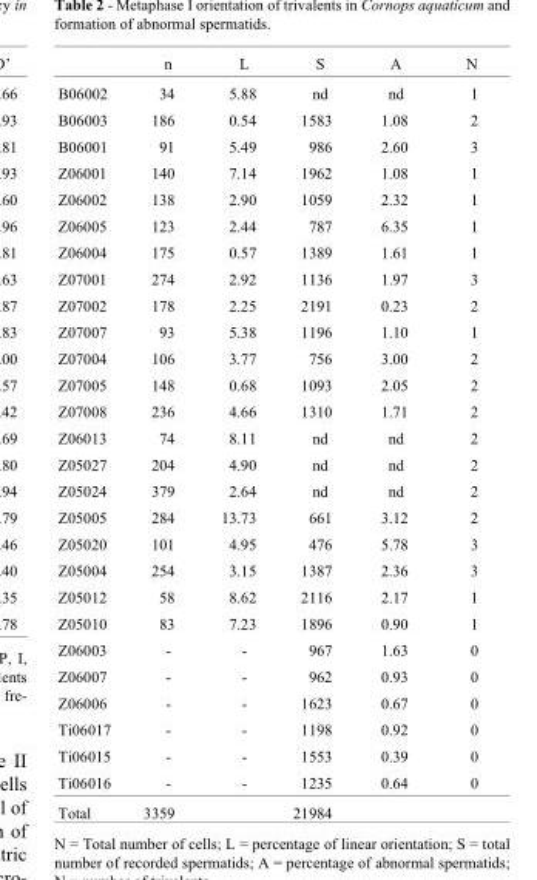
<table><thead><tr><td></td><td>n</td><td>L</td><td>S</td><td>A</td><td>N</td></tr></thead><tbody><tr><td>B06002</td><td>34</td><td>5.88</td><td>nd</td><td>nd</td><td>1</td></tr><tr><td>B06003</td><td>186</td><td>0.54</td><td>1583</td><td>1.08</td><td>2</td></tr><tr><td>B06001</td><td>91</td><td>5.49</td><td>986</td><td>2.60</td><td>3</td></tr><tr><td>Z06001</td><td>140</td><td>7.14</td><td>1962</td><td>1.08</td><td>1</td></tr><tr><td>Z06002</td><td>138</td><td>2.90</td><td>1059</td><td>2.32</td><td>1</td></tr><tr><td>Z06005</td><td>123</td><td>2.44</td><td>787</td><td>6.35</td><td>1</td></tr><tr><td>Z06004</td><td>175</td><td>0.57</td><td>1389</td><td>1.61</td><td>1</td></tr><tr><td>Z07001</td><td>274</td><td>2.92</td><td>1136</td><td>1.97</td><td>3</td></tr><tr><td>Z07002</td><td>178</td><td>2.25</td><td>2191</td><td>0.23</td><td>2</td></tr><tr><td>Z07007</td><td>93</td><td>5.38</td><td>1196</td><td>1.10</td><td>1</td></tr><tr><td>Z07004</td><td>106</td><td>3.77</td><td>756</td><td>3.00</td><td>2</td></tr><tr><td>Z07005</td><td>148</td><td>0.68</td><td>1093</td><td>2.05</td><td>2</td></tr><tr><td>Z07008</td><td>236</td><td>4.66</td><td>1310</td><td>1.71</td><td>2</td></tr><tr><td>Z06013</td><td>74</td><td>8.11</td><td>nd</td><td>nd</td><td>2</td></tr><tr><td>Z05027</td><td>204</td><td>4.90</td><td>nd</td><td>nd</td><td>2</td></tr><tr><td>Z05024</td><td>379</td><td>2.64</td><td>nd</td><td>nd</td><td>2</td></tr><tr><td>Z05005</td><td>284</td><td>13.73</td><td>661</td><td>3.12</td><td>2</td></tr><tr><td>Z05020</td><td>101</td><td>4.95</td><td>476</td><td>5.78</td><td>3</td></tr><tr><td>Z05004</td><td>254</td><td>3.15</td><td>1387</td><td>2.36</td><td>3</td></tr><tr><td>Z05012</td><td>58</td><td>8.62</td><td>2116</td><td>2.17</td><td>1</td></tr><tr><td>Z05010</td><td>83</td><td>7.23</td><td>1896</td><td>0.90</td><td>1</td></tr><tr><td>Z06003</td><td>-</td><td>-</td><td>967</td><td>1.63</td><td>0</td></tr><tr><td>Z06007</td><td>-</td><td>-</td><td>962</td><td>0.93</td><td>0</td></tr><tr><td>Z06006</td><td>-</td><td>-</td><td>1623</td><td>0.67</td><td>0</td></tr><tr><td>Ti06017</td><td>-</td><td>-</td><td>1198</td><td>0.92</td><td>0</td></tr><tr><td>Ti06015</td><td>-</td><td>-</td><td>1553</td><td>0.39</td><td>0</td></tr><tr><td>Ti06016</td><td>-</td><td>-</td><td>1235</td><td>0.64</td><td>0</td></tr><tr><td>Total</td><td>3359</td><td></td><td>21984</td><td></td><td></td></tr></tbody></table>